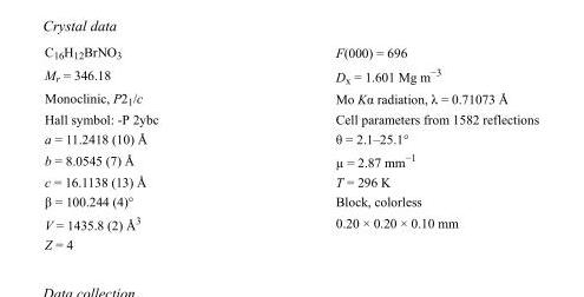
<table><tbody><tr><td>C<sub>16</sub>H<sub>12</sub>BrNO<sub>3</sub></td><td>F(000) = 696</td></tr><tr><td>M<sub>r</sub> = 346.18</td><td>D<sub>x</sub> = 1.601 Mg m<sup>−3</sup></td></tr><tr><td>Monoclinic, P2<sub>1</sub>/c</td><td>Mo Kα radiation, λ = 0.71073 Å</td></tr><tr><td>Hall symbol: -P 2ybc</td><td>Cell parameters from 1582 reflections</td></tr><tr><td>a = 11.2418 (10) Å</td><td>θ = 2.1–25.1°</td></tr><tr><td>b = 8.0545 (7) Å</td><td>µ = 2.87 mm<sup>−1</sup></td></tr><tr><td>c = 16.1138 (13) Å</td><td>T = 296 K</td></tr><tr><td>β = 100.244 (4)°</td><td>Block, colorless</td></tr><tr><td>V = 1435.8 (2) Å<sup>3</sup></td><td>0.20 × 0.20 × 0.10 mm</td></tr><tr><td>Z = 4</td><td></td></tr></tbody></table>